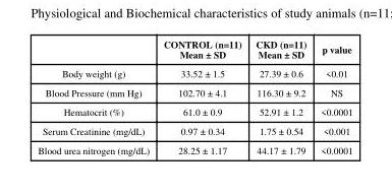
<table><thead><tr><td></td><td>CONTROL (n=11) Mean ± SD</td><td>CKD (n=11) Mean ± SD</td><td>p value</td></tr></thead><tbody><tr><td>Body weight (g)</td><td>33.52 ± 1.5</td><td>27.39 ± 0.6</td><td>&lt;0.01</td></tr><tr><td>Blood Pressure (mm Hg)</td><td>102.70 ± 4.1</td><td>116.30 ± 9.2</td><td>NS</td></tr><tr><td>Hematocrit (%)</td><td>61.0 ± 0.9</td><td>52.91 ± 1.2</td><td>&lt;0.0001</td></tr><tr><td>Serum Creatinine (mg/dL)</td><td>0.97 ± 0.34</td><td>1.75 ± 0.54</td><td>&lt;0.001</td></tr><tr><td>Blood urea nitrogen (mg/dL)</td><td>28.25 ± 1.17</td><td>44.17 ± 1.79</td><td>&lt;0.0001</td></tr></tbody></table>